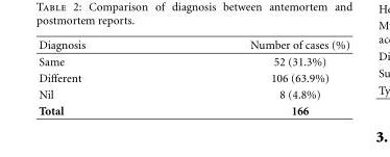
<table><thead><tr><td>Diagnosis</td><td>Number of cases (%)</td></tr></thead><tbody><tr><td>Same</td><td>52 (31.3%)</td></tr><tr><td>Different</td><td>106 (63.9%)</td></tr><tr><td>Nil</td><td>8 (4.8%)</td></tr><tr><td>Total</td><td>166</td></tr></tbody></table>